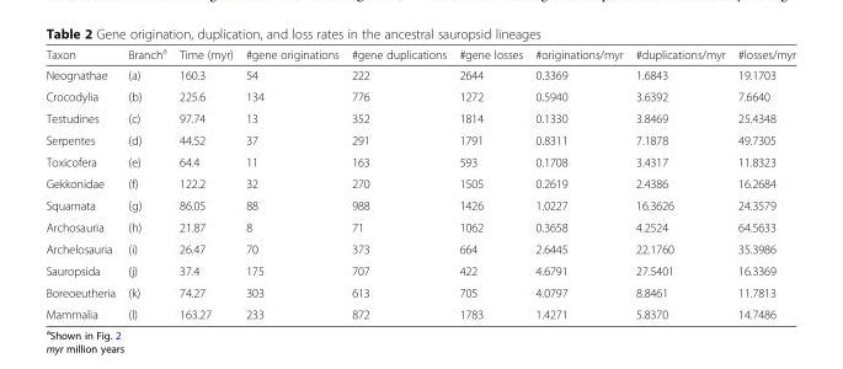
<table><thead><tr><td>Taxon</td><td>Branch<sup>a</sup></td><td>Time (myr)</td><td>#gene originations</td><td>#gene duplications</td><td>#gene losses</td><td>#originations/myr</td><td>#duplications/myr</td><td>#losses/myr</td></tr></thead><tbody><tr><td>Neognathae</td><td>(a)</td><td>160.3</td><td>54</td><td>222</td><td>2644</td><td>0.3369</td><td>1.6843</td><td>19.1703</td></tr><tr><td>Crocodylia</td><td>(b)</td><td>225.6</td><td>134</td><td>776</td><td>1272</td><td>0.5940</td><td>3.6392</td><td>7.6640</td></tr><tr><td>Testudines</td><td>(c)</td><td>97.74</td><td>13</td><td>352</td><td>1814</td><td>0.1330</td><td>3.8469</td><td>25.4348</td></tr><tr><td>Serpentes</td><td>(d)</td><td>44.52</td><td>37</td><td>291</td><td>1791</td><td>0.8311</td><td>7.1878</td><td>49.7305</td></tr><tr><td>Toxicofera</td><td>(e)</td><td>64.4</td><td>11</td><td>163</td><td>593</td><td>0.1708</td><td>3.4317</td><td>11.8323</td></tr><tr><td>Gekkonidae</td><td>(f)</td><td>122.2</td><td>32</td><td>270</td><td>1505</td><td>0.2619</td><td>2.4386</td><td>16.2684</td></tr><tr><td>Squamata</td><td>(g)</td><td>86.05</td><td>88</td><td>988</td><td>1426</td><td>1.0227</td><td>16.3626</td><td>24.3579</td></tr><tr><td>Archosauria</td><td>(h)</td><td>21.87</td><td>8</td><td>71</td><td>1062</td><td>0.3658</td><td>4.2524</td><td>64.5633</td></tr><tr><td>Archelosauria</td><td>(i)</td><td>26.47</td><td>70</td><td>373</td><td>664</td><td>2.6445</td><td>22.1760</td><td>35.3986</td></tr><tr><td>Sauropsida</td><td>(j)</td><td>37.4</td><td>175</td><td>707</td><td>422</td><td>4.6791</td><td>27.5401</td><td>16.3369</td></tr><tr><td>Boreoeutheria</td><td>(k)</td><td>74.27</td><td>303</td><td>613</td><td>705</td><td>4.0797</td><td>8.8461</td><td>11.7813</td></tr><tr><td>Mammalia</td><td>(l)</td><td>163.27</td><td>233</td><td>872</td><td>1783</td><td>1.4271</td><td>5.8370</td><td>14.7486</td></tr></tbody></table>